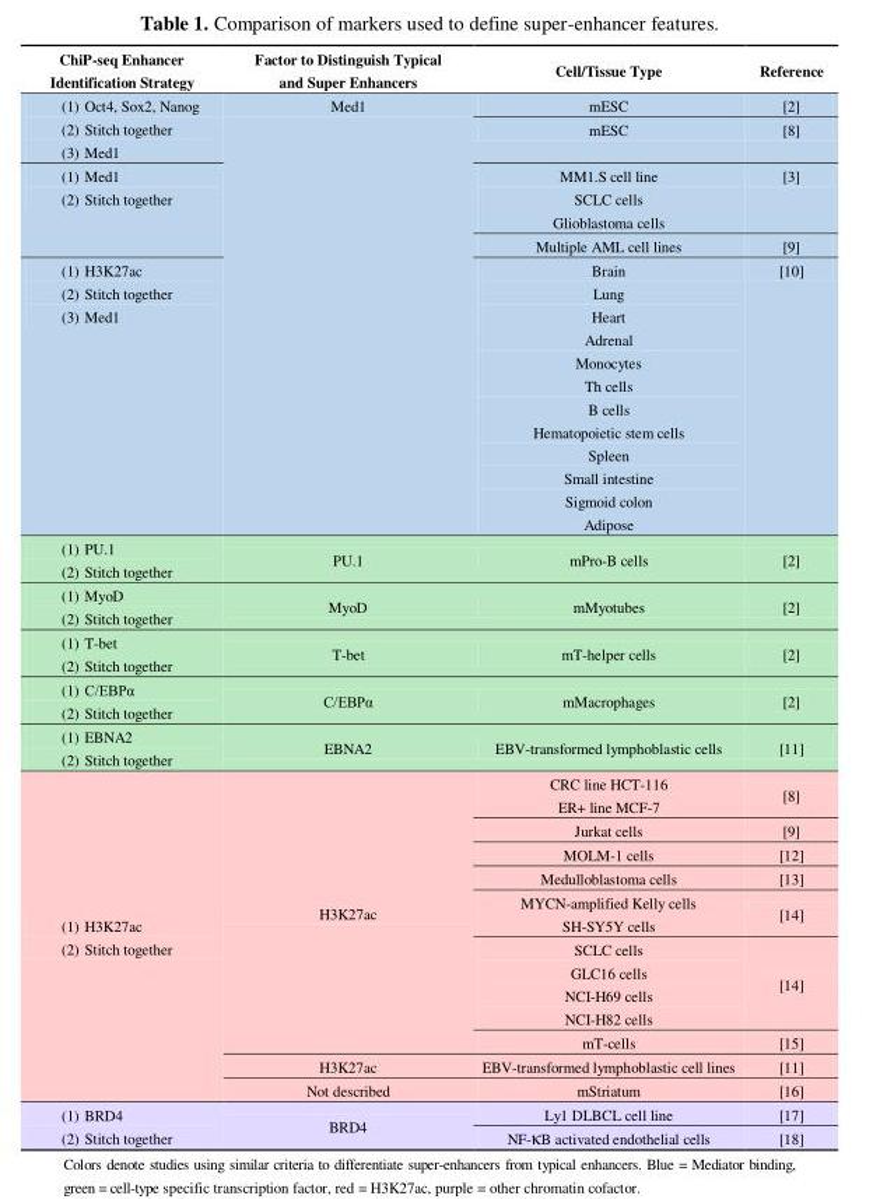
<table><thead><tr><td>ChiP-seq Enhancer Identification Strategy</td><td>Factor to Distinguish Typical and Super Enhancers</td><td>Cell/Tissue Type</td><td>Reference</td></tr></thead><tbody><tr><td rowspan="2">(1) Oct4, Sox2, Nanog (2) Stitch together (3) Med1</td><td rowspan="5">Med1</td><td>mESC</td><td>[2]</td></tr><tr><td>mESC</td><td>[8]</td></tr><tr><td rowspan="2">(1) Med1 (2) Stitch together</td><td>MM1.S cell line SCLC cells Glioblastoma cells</td><td>[3]</td></tr><tr><td>Multiple AML cell lines</td><td>[9]</td></tr><tr><td>(1) H3K27ac (2) Stitch together (3) Med1</td><td>Brain Lung Heart Adrenal Monocytes Th cells B cells Hematopoietic stem cells Spleen Small intestine Sigmoid colon Adipose</td><td>[10]</td></tr><tr><td>(1) PU.1 (2) Stitch together</td><td>PU.1</td><td>mPro-B cells</td><td>[2]</td></tr><tr><td>(1) MyoD (2) Stitch together</td><td>MyoD</td><td>mMyotubes</td><td>[2]</td></tr><tr><td>(1) T-bet (2) Stitch together</td><td>T-bet</td><td>mT-helper cells</td><td>[2]</td></tr><tr><td>(1) C/EBPα (2) Stitch together</td><td>C/EBPα</td><td>mMacrophages</td><td>[2]</td></tr><tr><td>(1) EBNA2 (2) Stitch together</td><td>EBNA2</td><td>EBV-transformed lymphoblastic cells</td><td>[11]</td></tr><tr><td rowspan="9">(1) H3K27ac (2) Stitch together</td><td rowspan="7">H3K27ac</td><td>CRC line HCT-116 ER+ line MCF-7</td><td>[8]</td></tr><tr><td>Jurkat cells</td><td>[9]</td></tr><tr><td>MOLM-1 cells</td><td>[12]</td></tr><tr><td>Medulloblastoma cells</td><td>[13]</td></tr><tr><td>MYCN-amplified Kelly cells SH-SY5Y cells</td><td>[14]</td></tr><tr><td>SCLC cells GLC16 cells NCI-H69 cells NCI-H82 cells</td><td>[14]</td></tr><tr><td>mT-cells</td><td>[15]</td></tr><tr><td>H3K27ac</td><td>EBV-transformed lymphoblastic cell lines</td><td>[11]</td></tr><tr><td>Not described</td><td>mStriatum</td><td>[16]</td></tr><tr><td rowspan="2">(1) BRD4 (2) Stitch together</td><td rowspan="2">BRD4</td><td>Ly1 DLBCL cell line</td><td>[17]</td></tr><tr><td>NF-κB activated endothelial cells</td><td>[18]</td></tr></tbody></table>